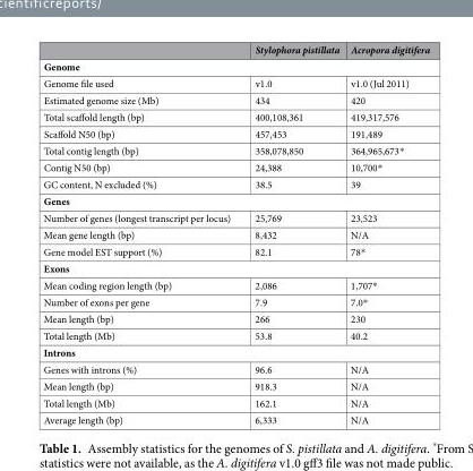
<table><thead><tr><td></td><td>Stylophora pistillata</td><td>Acropora digitifera</td></tr></thead><tbody><tr><td colspan="3">Genome</td></tr><tr><td>Genome file used</td><td>v1.0</td><td>v1.0 (Jul 2011)</td></tr><tr><td>Estimated genome size (Mb)</td><td>434</td><td>420</td></tr><tr><td>Total scaffold length (bp)</td><td>400,108,361</td><td>419,317,576</td></tr><tr><td>Scaffold N50 (bp)</td><td>457,453</td><td>191,489</td></tr><tr><td>Total contig length (bp)</td><td>358,078,850</td><td>364,965,673*</td></tr><tr><td>Contig N50 (bp)</td><td>24,388</td><td>10,700*</td></tr><tr><td>GC content, N excluded (%)</td><td>38.5</td><td>39</td></tr><tr><td colspan="3">Genes</td></tr><tr><td>Number of genes (longest transcript per locus)</td><td>25,769</td><td>23,523</td></tr><tr><td>Mean gene length (bp)</td><td>8,432</td><td>N/A</td></tr><tr><td>Gene model EST support (%)</td><td>82.1</td><td>78*</td></tr><tr><td colspan="3">Exons</td></tr><tr><td>Mean coding region length (bp)</td><td>2,086</td><td>1,707*</td></tr><tr><td>Number of exons per gene</td><td>7.9</td><td>7.0*</td></tr><tr><td>Mean length (bp)</td><td>266</td><td>230</td></tr><tr><td>Total length (Mb)</td><td>53.8</td><td>40.2</td></tr><tr><td colspan="3">Introns</td></tr><tr><td>Genes with introns (%)</td><td>96.6</td><td>N/A</td></tr><tr><td>Mean length (bp)</td><td>918.3</td><td>N/A</td></tr><tr><td>Total length (Mb)</td><td>162.1</td><td>N/A</td></tr><tr><td>Average length (bp)</td><td>6,333</td><td>N/A</td></tr></tbody></table>